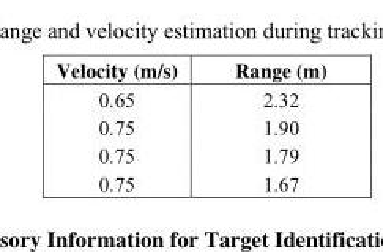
<table><thead><tr><td>Velocity (m/s)</td><td>Range (m)</td></tr></thead><tbody><tr><td>0.65</td><td>2.32</td></tr><tr><td>0.75</td><td>1.90</td></tr><tr><td>0.75</td><td>1.79</td></tr><tr><td>0.75</td><td>1.67</td></tr></tbody></table>